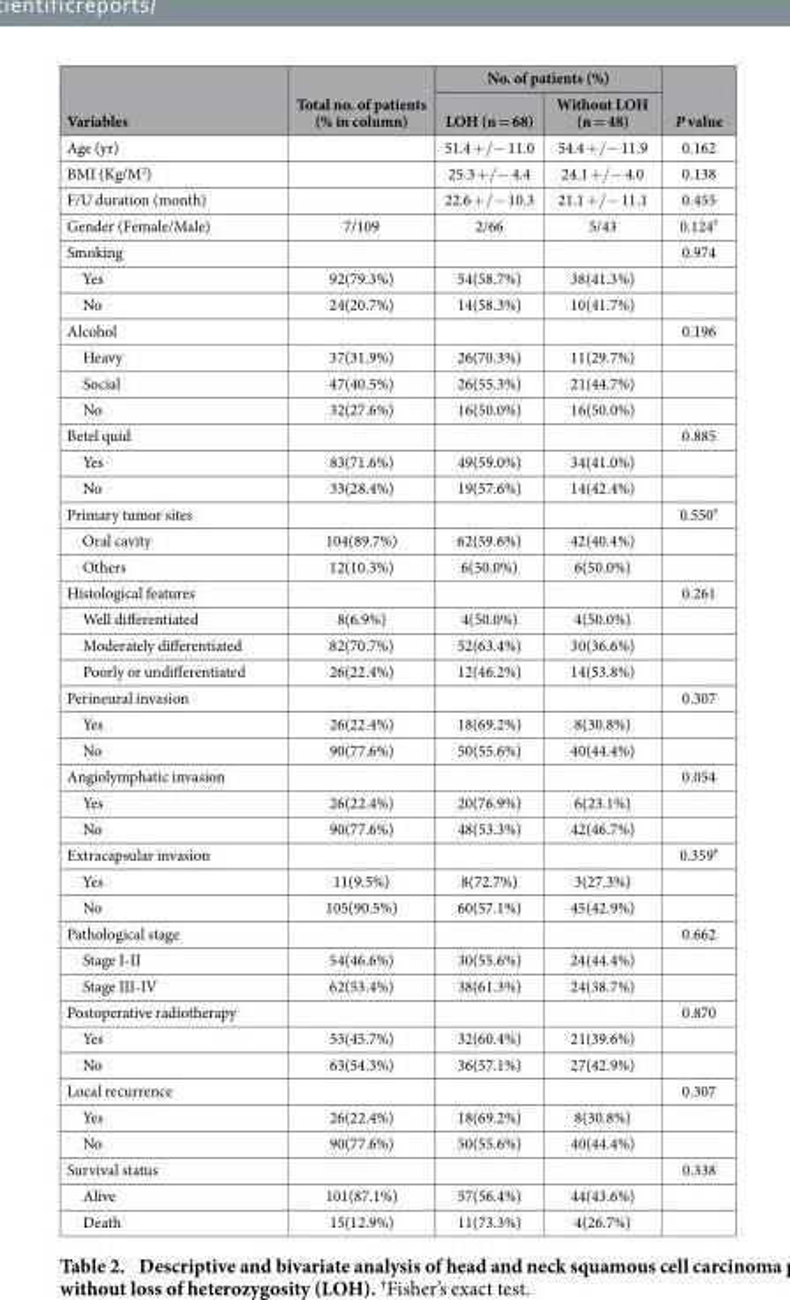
<table><thead><tr><td rowspan="2">Variables</td><td rowspan="2">Total no. of patients (% in column)</td><td colspan="2">No. of patients (%)</td><td rowspan="2">P value</td></tr><tr><td>LOH (n = 68)</td><td>Without LOH (n = 48)</td></tr></thead><tbody><tr><td>Age (yr)</td><td></td><td>51.4 +/- 11.0</td><td>54.4 +/- 11.9</td><td>0.162</td></tr><tr><td>BMI (Kg/M<sup>2</sup>)</td><td></td><td>25.3 +/- 4.4</td><td>24.1 +/- 4.0</td><td>0.138</td></tr><tr><td>F/U duration (month)</td><td></td><td>22.6 +/- 10.3</td><td>21.1 +/- 11.1</td><td>0.455</td></tr><tr><td>Gender (Female/Male)</td><td>7/109</td><td>2/66</td><td>5/43</td><td>0.124†</td></tr><tr><td>Smoking</td><td></td><td></td><td></td><td>0.974</td></tr><tr><td>Yes</td><td>92(79.3%)</td><td>54(58.7%)</td><td>38(41.3%)</td><td></td></tr><tr><td>No</td><td>24(20.7%)</td><td>14(58.3%)</td><td>10(41.7%)</td><td></td></tr><tr><td>Alcohol</td><td></td><td></td><td></td><td>0.196</td></tr><tr><td>Heavy</td><td>37(31.9%)</td><td>26(70.3%)</td><td>11(29.7%)</td><td></td></tr><tr><td>Social</td><td>47(40.5%)</td><td>26(55.3%)</td><td>21(44.7%)</td><td></td></tr><tr><td>No</td><td>32(27.6%)</td><td>16(50.0%)</td><td>16(50.0%)</td><td></td></tr><tr><td>Betel quid</td><td></td><td></td><td></td><td>0.885</td></tr><tr><td>Yes</td><td>83(71.6%)</td><td>49(59.0%)</td><td>34(41.0%)</td><td></td></tr><tr><td>No</td><td>33(28.4%)</td><td>19(57.6%)</td><td>14(42.4%)</td><td></td></tr><tr><td>Primary tumor sites</td><td></td><td></td><td></td><td>0.550†</td></tr><tr><td>Oral cavity</td><td>104(89.7%)</td><td>62(59.6%)</td><td>42(40.4%)</td><td></td></tr><tr><td>Others</td><td>12(10.3%)</td><td>6(50.0%)</td><td>6(50.0%)</td><td></td></tr><tr><td>Histological features</td><td></td><td></td><td></td><td>0.261</td></tr><tr><td>Well differentiated</td><td>8(6.9%)</td><td>4(50.0%)</td><td>4(50.0%)</td><td></td></tr><tr><td>Moderately differentiated</td><td>82(70.7%)</td><td>52(63.4%)</td><td>30(36.6%)</td><td></td></tr><tr><td>Poorly or undifferentiated</td><td>26(22.4%)</td><td>12(46.2%)</td><td>14(53.8%)</td><td></td></tr><tr><td>Perineural invasion</td><td></td><td></td><td></td><td>0.307</td></tr><tr><td>Yes</td><td>26(22.4%)</td><td>18(69.2%)</td><td>8(30.8%)</td><td></td></tr><tr><td>No</td><td>90(77.6%)</td><td>50(55.6%)</td><td>40(44.4%)</td><td></td></tr><tr><td>Angiolymphatic invasion</td><td></td><td></td><td></td><td>0.054</td></tr><tr><td>Yes</td><td>26(22.4%)</td><td>20(76.9%)</td><td>6(23.1%)</td><td></td></tr><tr><td>No</td><td>90(77.6%)</td><td>48(53.3%)</td><td>42(46.7%)</td><td></td></tr><tr><td>Extracapsular invasion</td><td></td><td></td><td></td><td>0.359†</td></tr><tr><td>Yes</td><td>11(9.5%)</td><td>8(72.7%)</td><td>3(27.3%)</td><td></td></tr><tr><td>No</td><td>105(90.5%)</td><td>60(57.1%)</td><td>45(42.9%)</td><td></td></tr><tr><td>Pathological stage</td><td></td><td></td><td></td><td>0.662</td></tr><tr><td>Stage I-II</td><td>54(46.6%)</td><td>30(55.6%)</td><td>24(44.4%)</td><td></td></tr><tr><td>Stage III-IV</td><td>62(53.4%)</td><td>38(61.3%)</td><td>24(38.7%)</td><td></td></tr><tr><td>Postoperative radiotherapy</td><td></td><td></td><td></td><td>0.870</td></tr><tr><td>Yes</td><td>53(45.7%)</td><td>32(60.4%)</td><td>21(39.6%)</td><td></td></tr><tr><td>No</td><td>63(54.3%)</td><td>36(57.1%)</td><td>27(42.9%)</td><td></td></tr><tr><td>Local recurrence</td><td></td><td></td><td></td><td>0.307</td></tr><tr><td>Yes</td><td>26(22.4%)</td><td>18(69.2%)</td><td>8(30.8%)</td><td></td></tr><tr><td>No</td><td>90(77.6%)</td><td>50(55.6%)</td><td>40(44.4%)</td><td></td></tr><tr><td>Survival status</td><td></td><td></td><td></td><td>0.338</td></tr><tr><td>Alive</td><td>101(87.1%)</td><td>57(56.4%)</td><td>44(43.6%)</td><td></td></tr><tr><td>Death</td><td>15(12.9%)</td><td>11(73.3%)</td><td>4(26.7%)</td><td></td></tr></tbody></table>